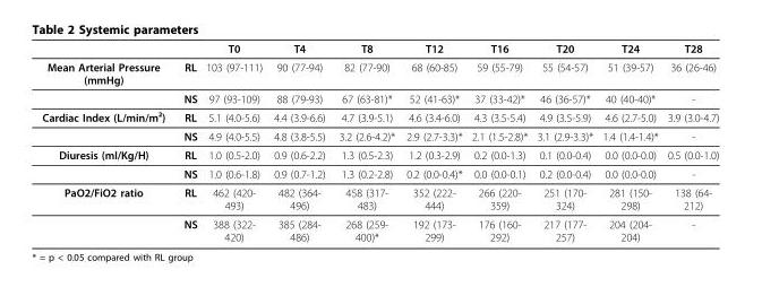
<table><thead><tr><td></td><td></td><td>T0</td><td>T4</td><td>T8</td><td>T12</td><td>T16</td><td>T20</td><td>T24</td><td>T28</td></tr></thead><tbody><tr><td rowspan="2">Mean Arterial Pressure (mmHg)</td><td>RL</td><td>103 (97-111)</td><td>90 (77-94)</td><td>82 (77-90)</td><td>68 (60-85)</td><td>59 (55-79)</td><td>55 (54-57)</td><td>51 (39-57)</td><td>36 (26-46)</td></tr><tr><td>NS</td><td>97 (93-109)</td><td>88 (79-93)</td><td>67 (63-81)*</td><td>52 (41-63)*</td><td>37 (33-42)*</td><td>46 (36-57)*</td><td>40 (40-40)*</td><td>-</td></tr><tr><td rowspan="2">Cardiac Index (L/min/m²)</td><td>RL</td><td>5.1 (4.0-5.6)</td><td>4.4 (3.9-6.6)</td><td>4.7 (3.9-5.1)</td><td>4.6 (3.4-6.0)</td><td>4.3 (3.5-5.4)</td><td>4.9 (3.5-5.9)</td><td>4.6 (2.7-5.0)</td><td>3.9 (3.0-4.7)</td></tr><tr><td>NS</td><td>4.9 (4.0-5.5)</td><td>4.8 (3.8-5.5)</td><td>3.2 (2.6-4.2)*</td><td>2.9 (2.7-3.3)*</td><td>2.1 (1.5-2.8)*</td><td>3.1 (2.9-3.3)*</td><td>1.4 (1.4-1.4)*</td><td>-</td></tr><tr><td rowspan="2">Diuresis (ml/Kg/H)</td><td>RL</td><td>1.0 (0.5-2.0)</td><td>0.9 (0.6-2.2)</td><td>1.3 (0.5-2.3)</td><td>1.2 (0.3-2.9)</td><td>0.2 (0.0-1.3)</td><td>0.1 (0.0-0.4)</td><td>0.0 (0.0-0.0)</td><td>0.5 (0.0-1.0)</td></tr><tr><td>NS</td><td>1.0 (0.6-1.8)</td><td>0.9 (0.7-1.2)</td><td>1.3 (0.2-2.8)</td><td>0.2 (0.0-0.4)*</td><td>0.0 (0.0-0.1)</td><td>0.2 (0.0-0.4)</td><td>0.0 (0.0-0.0)</td><td>-</td></tr><tr><td rowspan="2">PaO2/FiO2 ratio</td><td>RL</td><td>462 (420- 493)</td><td>482 (364- 496)</td><td>458 (317- 483)</td><td>352 (222- 444)</td><td>266 (220- 359)</td><td>251 (170- 324)</td><td>281 (150- 298)</td><td>138 (64- 212)</td></tr><tr><td>NS</td><td>388 (322- 420)</td><td>385 (284- 486)</td><td>268 (259- 400)*</td><td>192 (173- 299)</td><td>176 (160- 292)</td><td>217 (177- 257)</td><td>204 (204- 204)</td><td>-</td></tr></tbody></table>